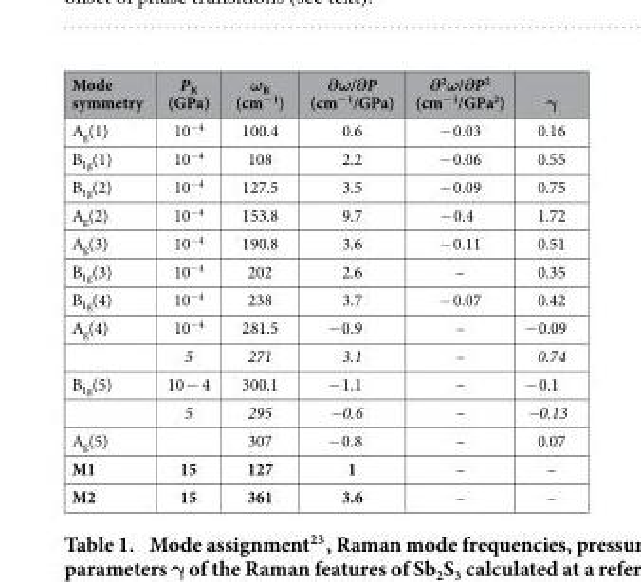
<table><thead><tr><td>Mode symmetry</td><td>P<sub>R</sub> (GPa)</td><td>ω<sub>R</sub> (cm<sup>−1</sup>)</td><td>∂ω/∂P (cm<sup>−1</sup>/GPa)</td><td>∂<sup>2</sup>ω/∂P<sup>2</sup> (cm<sup>−1</sup>/GPa<sup>2</sup>)</td><td>γ</td></tr></thead><tbody><tr><td>A<sub>g</sub>(1)</td><td>10<sup>−4</sup></td><td>100.4</td><td>0.6</td><td>− 0.03</td><td>0.16</td></tr><tr><td>B<sub>1g</sub>(1)</td><td>10<sup>−4</sup></td><td>108</td><td>2.2</td><td>− 0.06</td><td>0.55</td></tr><tr><td>B<sub>1g</sub>(2)</td><td>10<sup>−4</sup></td><td>127.5</td><td>3.5</td><td>− 0.09</td><td>0.75</td></tr><tr><td>A<sub>g</sub>(2)</td><td>10<sup>−4</sup></td><td>153.8</td><td>9.7</td><td>− 0.4</td><td>1.72</td></tr><tr><td>A<sub>g</sub>(3)</td><td>10<sup>−4</sup></td><td>190.8</td><td>3.6</td><td>− 0.11</td><td>0.51</td></tr><tr><td>B<sub>1g</sub>(3)</td><td>10<sup>−4</sup></td><td>202</td><td>2.6</td><td>–</td><td>0.35</td></tr><tr><td>B<sub>1g</sub>(4)</td><td>10<sup>−4</sup></td><td>238</td><td>3.7</td><td>− 0.07</td><td>0.42</td></tr><tr><td rowspan="2">A<sub>g</sub>(4)</td><td>10<sup>−4</sup></td><td>281.5</td><td>− 0.9</td><td>–</td><td>− 0.09</td></tr><tr><td>5</td><td>271</td><td>3.1</td><td>–</td><td>0.74</td></tr><tr><td rowspan="2">B<sub>1g</sub>(5)</td><td>10 − 4</td><td>300.1</td><td>− 1.1</td><td>–</td><td>− 0.1</td></tr><tr><td>5</td><td>295</td><td>−0.6</td><td>–</td><td>−0.13</td></tr><tr><td>A<sub>g</sub>(5)</td><td></td><td>307</td><td>− 0.8</td><td>–</td><td>0.07</td></tr><tr><td>M1</td><td>15</td><td>127</td><td>1</td><td>–</td><td>–</td></tr><tr><td>M2</td><td>15</td><td>361</td><td>3.6</td><td>–</td><td>–</td></tr></tbody></table>